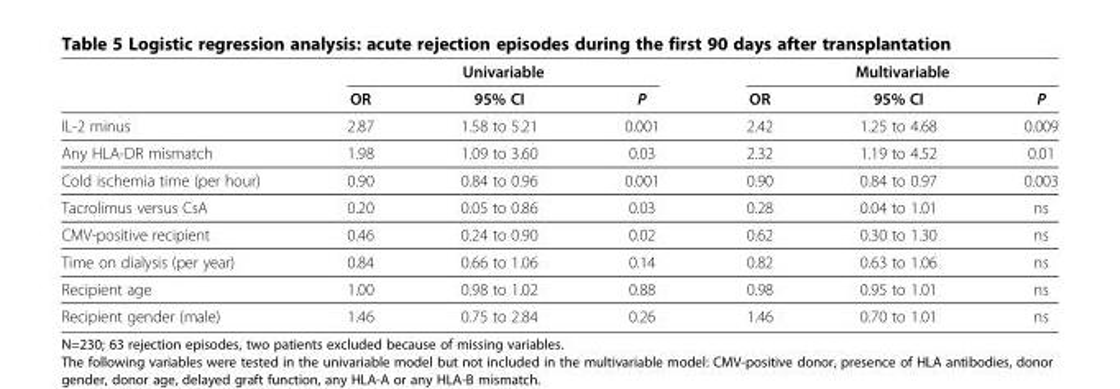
<table><thead><tr><td rowspan="2"></td><td colspan="3">Univariable</td><td colspan="3">Multivariable</td></tr><tr><td>OR</td><td>95% CI</td><td>P</td><td>OR</td><td>95% CI</td><td>P</td></tr></thead><tbody><tr><td>IL-2 minus</td><td>2.87</td><td>1.58 to 5.21</td><td>0.001</td><td>2.42</td><td>1.25 to 4.68</td><td>0.009</td></tr><tr><td>Any HLA-DR mismatch</td><td>1.98</td><td>1.09 to 3.60</td><td>0.03</td><td>2.32</td><td>1.19 to 4.52</td><td>0.01</td></tr><tr><td>Cold ischemia time (per hour)</td><td>0.90</td><td>0.84 to 0.96</td><td>0.001</td><td>0.90</td><td>0.84 to 0.97</td><td>0.003</td></tr><tr><td>Tacrolimus versus CsA</td><td>0.20</td><td>0.05 to 0.86</td><td>0.03</td><td>0.28</td><td>0.04 to 1.01</td><td>ns</td></tr><tr><td>CMV-positive recipient</td><td>0.46</td><td>0.24 to 0.90</td><td>0.02</td><td>0.62</td><td>0.30 to 1.30</td><td>ns</td></tr><tr><td>Time on dialysis (per year)</td><td>0.84</td><td>0.66 to 1.06</td><td>0.14</td><td>0.82</td><td>0.63 to 1.06</td><td>ns</td></tr><tr><td>Recipient age</td><td>1.00</td><td>0.98 to 1.02</td><td>0.88</td><td>0.98</td><td>0.95 to 1.01</td><td>ns</td></tr><tr><td>Recipient gender (male)</td><td>1.46</td><td>0.75 to 2.84</td><td>0.26</td><td>1.46</td><td>0.70 to 1.01</td><td>ns</td></tr></tbody></table>